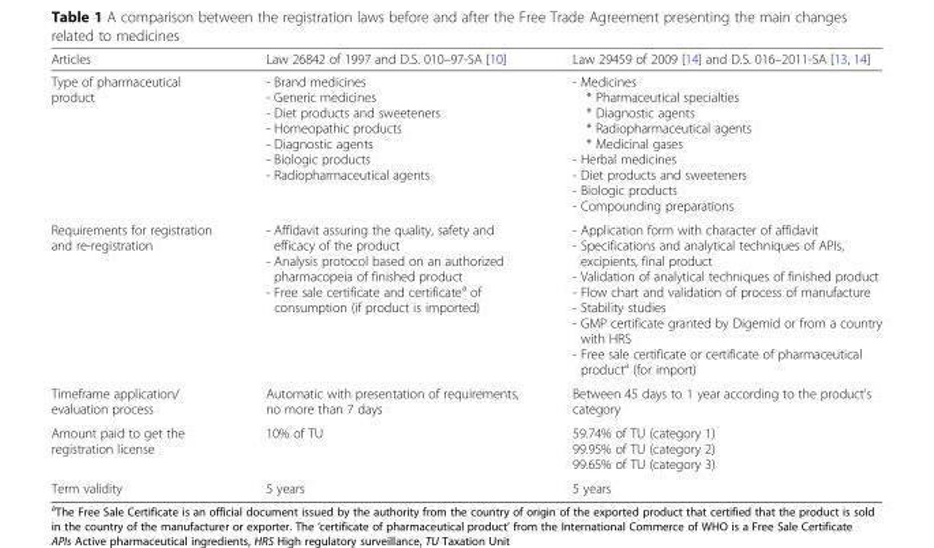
<table><thead><tr><td>Articles</td><td>Law 26842 of 1997 and D.S. 010–97-SA [10]</td><td>Law 29459 of 2009 [14] and D.S. 016–2011-SA [13, 14]</td></tr></thead><tbody><tr><td>Type of pharmaceutical product</td><td>- Brand medicines - Generic medicines - Diet products and sweeteners - Homeopathic products - Diagnostic agents - Biologic products - Radiopharmaceutical agents</td><td>- Medicines * Pharmaceutical specialties * Diagnostic agents * Radiopharmaceutical agents * Medicinal gases - Herbal medicines - Diet products and sweeteners - Biologic products - Compounding preparations</td></tr><tr><td>Requirements for registration and re-registration</td><td>- Affidavit assuring the quality, safety and efficacy of the product - Analysis protocol based on an authorized pharmacopeia of finished product - Free sale certificate and certificate<sup>a</sup> of consumption (if product is imported)</td><td>- Application form with character of affidavit - Specifications and analytical techniques of APIs, excipients, final product - Validation of analytical techniques of finished product - Flow chart and validation of process of manufacture - Stability studies - GMP certificate granted by Digemid or from a country with HRS - Free sale certificate or certificate of pharmaceutical product<sup>a</sup> (for import)</td></tr><tr><td>Timeframe application/ evaluation process</td><td>Automatic with presentation of requirements, no more than 7 days</td><td>Between 45 days to 1 year according to the product’s category</td></tr><tr><td>Amount paid to get the registration license</td><td>10% of TU</td><td>59.74% of TU (category 1) 99.95% of TU (category 2) 99.65% of TU (category 3)</td></tr><tr><td>Term validity</td><td>5 years</td><td>5 years</td></tr></tbody></table>